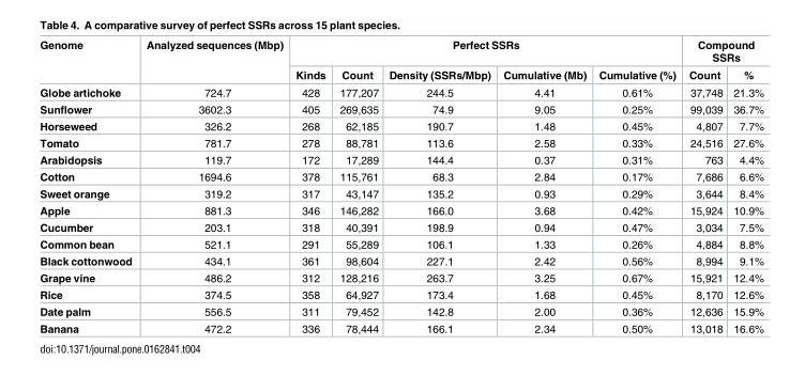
<table><thead><tr><td rowspan="2">Genome</td><td rowspan="2">Analyzed sequences (Mbp)</td><td colspan="5">Perfect SSRs</td><td colspan="2">Compound SSRs</td></tr><tr><td>Kinds</td><td>Count</td><td>Density (SSRs/Mbp)</td><td>Cumulative (Mb)</td><td>Cumulative (%)</td><td>Count</td><td>%</td></tr></thead><tbody><tr><td>Globe artichoke</td><td>724.7</td><td>428</td><td>177,207</td><td>244.5</td><td>4.41</td><td>0.61%</td><td>37,748</td><td>21.3%</td></tr><tr><td>Sunflower</td><td>3602.3</td><td>405</td><td>269,635</td><td>74.9</td><td>9.05</td><td>0.25%</td><td>99,039</td><td>36.7%</td></tr><tr><td>Horseweed</td><td>326.2</td><td>268</td><td>62,185</td><td>190.7</td><td>1.48</td><td>0.45%</td><td>4,807</td><td>7.7%</td></tr><tr><td>Tomato</td><td>781.7</td><td>278</td><td>88,781</td><td>113.6</td><td>2.58</td><td>0.33%</td><td>24,516</td><td>27.6%</td></tr><tr><td>Arabidopsis</td><td>119.7</td><td>172</td><td>17,289</td><td>144.4</td><td>0.37</td><td>0.31%</td><td>763</td><td>4.4%</td></tr><tr><td>Cotton</td><td>1694.6</td><td>378</td><td>115,761</td><td>68.3</td><td>2.84</td><td>0.17%</td><td>7,686</td><td>6.6%</td></tr><tr><td>Sweet orange</td><td>319.2</td><td>317</td><td>43,147</td><td>135.2</td><td>0.93</td><td>0.29%</td><td>3,644</td><td>8.4%</td></tr><tr><td>Apple</td><td>881.3</td><td>346</td><td>146,282</td><td>166.0</td><td>3.68</td><td>0.42%</td><td>15,924</td><td>10.9%</td></tr><tr><td>Cucumber</td><td>203.1</td><td>318</td><td>40,391</td><td>198.9</td><td>0.94</td><td>0.47%</td><td>3,034</td><td>7.5%</td></tr><tr><td>Common bean</td><td>521.1</td><td>291</td><td>55,289</td><td>106.1</td><td>1.33</td><td>0.26%</td><td>4,884</td><td>8.8%</td></tr><tr><td>Black cottonwood</td><td>434.1</td><td>361</td><td>98,604</td><td>227.1</td><td>2.42</td><td>0.56%</td><td>8,994</td><td>9.1%</td></tr><tr><td>Grape vine</td><td>486.2</td><td>312</td><td>128,216</td><td>263.7</td><td>3.25</td><td>0.67%</td><td>15,921</td><td>12.4%</td></tr><tr><td>Rice</td><td>374.5</td><td>358</td><td>64,927</td><td>173.4</td><td>1.68</td><td>0.45%</td><td>8,170</td><td>12.6%</td></tr><tr><td>Date palm</td><td>556.5</td><td>311</td><td>79,452</td><td>142.8</td><td>2.00</td><td>0.36%</td><td>12,636</td><td>15.9%</td></tr><tr><td>Banana</td><td>472.2</td><td>336</td><td>78,444</td><td>166.1</td><td>2.34</td><td>0.50%</td><td>13,018</td><td>16.6%</td></tr></tbody></table>